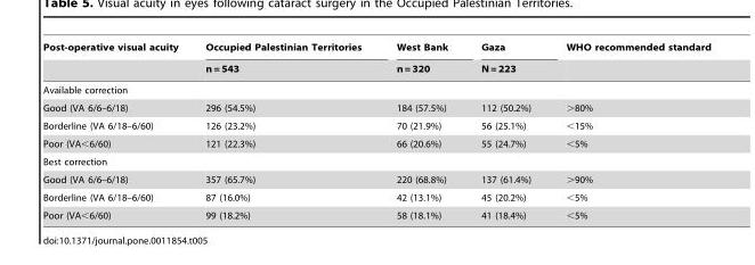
<table><thead><tr><td rowspan="2">Post-operative visual acuity</td><td rowspan="2">Occupied Palestinian Territories n = 543</td><td rowspan="2">West Bank n = 320</td><td rowspan="2">Gaza N = 223</td><td rowspan="2">WHO recommended standard</td></tr><tr></tr></thead><tbody><tr><td colspan="5">Available correction</td></tr><tr><td>Good (VA 6/6–6/18)</td><td>296 (54.5%)</td><td>184 (57.5%)</td><td>112 (50.2%)</td><td>&gt;80%</td></tr><tr><td>Borderline (VA 6/18–6/60)</td><td>126 (23.2%)</td><td>70 (21.9%)</td><td>56 (25.1%)</td><td>&lt;15%</td></tr><tr><td>Poor (VA&lt;6/60)</td><td>121 (22.3%)</td><td>66 (20.6%)</td><td>55 (24.7%)</td><td>&lt;5%</td></tr><tr><td colspan="5">Best correction</td></tr><tr><td>Good (VA 6/6–6/18)</td><td>357 (65.7%)</td><td>220 (68.8%)</td><td>137 (61.4%)</td><td>&gt;90%</td></tr><tr><td>Borderline (VA 6/18–6/60)</td><td>87 (16.0%)</td><td>42 (13.1%)</td><td>45 (20.2%)</td><td>&lt;5%</td></tr><tr><td>Poor (VA&lt;6/60)</td><td>99 (18.2%)</td><td>58 (18.1%)</td><td>41 (18.4%)</td><td>&lt;5%</td></tr></tbody></table>